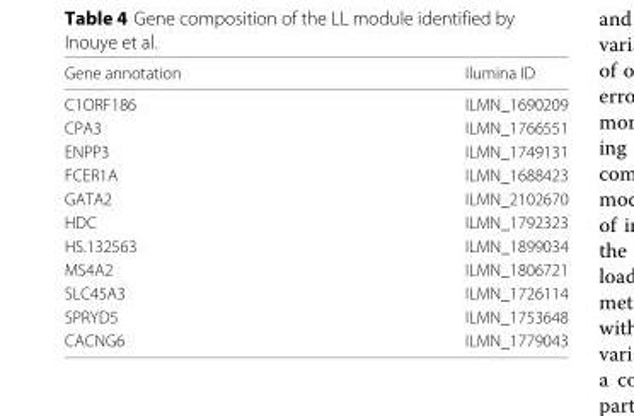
<table><thead><tr><td>Gene annotation</td><td>Ilumina ID</td></tr></thead><tbody><tr><td>C1ORF186</td><td>ILMN_1690209</td></tr><tr><td>CPA3</td><td>ILMN_1766551</td></tr><tr><td>ENPP3</td><td>ILMN_1749131</td></tr><tr><td>FCER1A</td><td>ILMN_1688423</td></tr><tr><td>GATA2</td><td>ILMN_2102670</td></tr><tr><td>HDC</td><td>ILMN_1792323</td></tr><tr><td>HS.132563</td><td>ILMN_1899034</td></tr><tr><td>MS4A2</td><td>ILMN_1806721</td></tr><tr><td>SLC45A3</td><td>ILMN_1726114</td></tr><tr><td>SPRYD5</td><td>ILMN_1753648</td></tr><tr><td>CACNG6</td><td>ILMN_1779043</td></tr></tbody></table>